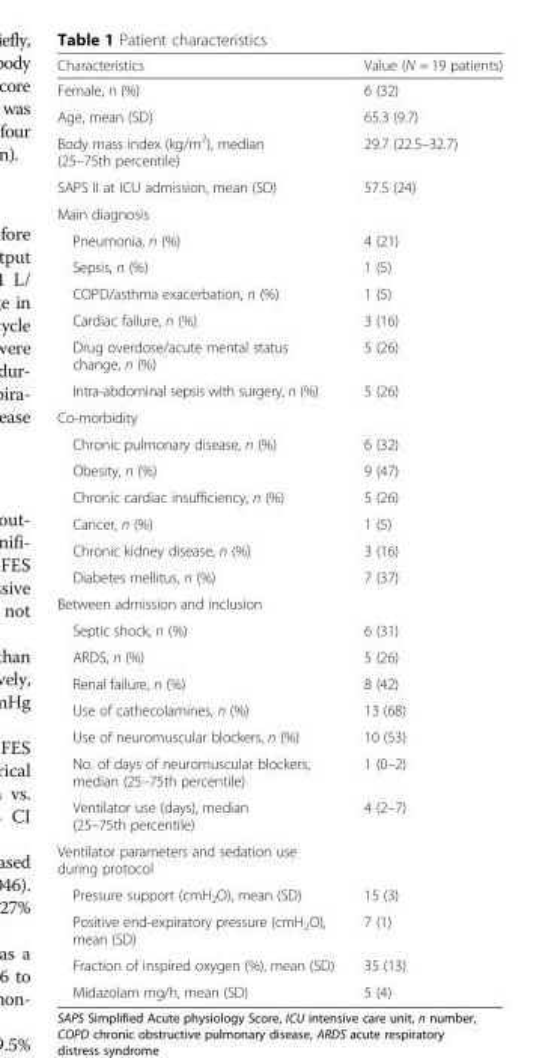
<table><thead><tr><td>Characteristics</td><td>Value (N = 19 patients)</td></tr></thead><tbody><tr><td>Female, n (%)</td><td>6 (32)</td></tr><tr><td>Age, mean (SD)</td><td>65.3 (9.7)</td></tr><tr><td>Body mass index (kg/m<sup>2</sup>), median (25–75th percentile)</td><td>29.7 (22.5–32.7)</td></tr><tr><td>SAPS II at ICU admission, mean (SD)</td><td>57.5 (24)</td></tr><tr><td colspan="2">Main diagnosis</td></tr><tr><td>Pneumonia, n (%)</td><td>4 (21)</td></tr><tr><td>Sepsis, n (%)</td><td>1 (5)</td></tr><tr><td>COPD/asthma exacerbation, n (%)</td><td>1 (5)</td></tr><tr><td>Cardiac failure, n (%)</td><td>3 (16)</td></tr><tr><td>Drug overdose/acute mental status change, n (%)</td><td>5 (26)</td></tr><tr><td>Intra-abdominal sepsis with surgery, n (%)</td><td>5 (26)</td></tr><tr><td colspan="2">Co-morbidity</td></tr><tr><td>Chronic pulmonary disease, n (%)</td><td>6 (32)</td></tr><tr><td>Obesity, n (%)</td><td>9 (47)</td></tr><tr><td>Chronic cardiac insufficiency, n (%)</td><td>5 (26)</td></tr><tr><td>Cancer, n (%)</td><td>1 (5)</td></tr><tr><td>Chronic kidney disease, n (%)</td><td>3 (16)</td></tr><tr><td>Diabetes mellitus, n (%)</td><td>7 (37)</td></tr><tr><td colspan="2">Between admission and inclusion</td></tr><tr><td>Septic shock, n (%)</td><td>6 (31)</td></tr><tr><td>ARDS, n (%)</td><td>5 (26)</td></tr><tr><td>Renal failure, n (%)</td><td>8 (42)</td></tr><tr><td>Use of cathecolamines, n (%)</td><td>13 (68)</td></tr><tr><td>Use of neuromuscular blockers, n (%)</td><td>10 (53)</td></tr><tr><td>No. of days of neuromuscular blockers, median (25–75th percentile)</td><td>1 (0–2)</td></tr><tr><td>Ventilator use (days), median (25–75th percentile)</td><td>4 (2–7)</td></tr><tr><td colspan="2">Ventilator parameters and sedation use during protocol</td></tr><tr><td>Pressure support (cmH<sub>2</sub>O), mean (SD)</td><td>15 (3)</td></tr><tr><td>Positive end-expiratory pressure (cmH<sub>2</sub>O), mean (SD)</td><td>7 (1)</td></tr><tr><td>Fraction of inspired oxygen (%), mean (SD)</td><td>35 (13)</td></tr><tr><td>Midazolam mg/h, mean (SD)</td><td>5 (4)</td></tr></tbody></table>